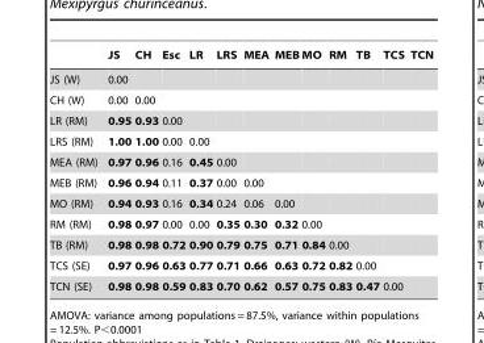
<table><thead><tr><td></td><td>JS</td><td>CH</td><td>Esc</td><td>LR</td><td>LRS</td><td>MEA</td><td>MEB</td><td>MO</td><td>RM</td><td>TB</td><td>TCS</td><td>TCN</td></tr></thead><tbody><tr><td>JS (W)</td><td>0.00</td><td></td><td></td><td></td><td></td><td></td><td></td><td></td><td></td><td></td><td></td><td></td></tr><tr><td>CH (W)</td><td>0.00</td><td>0.00</td><td></td><td></td><td></td><td></td><td></td><td></td><td></td><td></td><td></td><td></td></tr><tr><td>LR (RM)</td><td>0.95</td><td>0.93</td><td>0.00</td><td></td><td></td><td></td><td></td><td></td><td></td><td></td><td></td><td></td></tr><tr><td>LRS (RM)</td><td>1.00</td><td>1.00</td><td>0.00</td><td>0.00</td><td></td><td></td><td></td><td></td><td></td><td></td><td></td><td></td></tr><tr><td>MEA (RM)</td><td>0.97</td><td>0.96</td><td>0.16</td><td>0.45</td><td>0.00</td><td></td><td></td><td></td><td></td><td></td><td></td><td></td></tr><tr><td>MEB (RM)</td><td>0.96</td><td>0.94</td><td>0.11</td><td>0.37</td><td>0.00</td><td>0.00</td><td></td><td></td><td></td><td></td><td></td><td></td></tr><tr><td>MO (RM)</td><td>0.94</td><td>0.93</td><td>0.16</td><td>0.34</td><td>0.24</td><td>0.06</td><td>0.00</td><td></td><td></td><td></td><td></td><td></td></tr><tr><td>RM (RM)</td><td>0.98</td><td>0.97</td><td>0.00</td><td>0.00</td><td>0.35</td><td>0.30</td><td>0.32</td><td>0.00</td><td></td><td></td><td></td><td></td></tr><tr><td>TB (RM)</td><td>0.98</td><td>0.98</td><td>0.72</td><td>0.90</td><td>0.79</td><td>0.75</td><td>0.71</td><td>0.84</td><td>0.00</td><td></td><td></td><td></td></tr><tr><td>TCS (SE)</td><td>0.97</td><td>0.96</td><td>0.63</td><td>0.77</td><td>0.71</td><td>0.66</td><td>0.63</td><td>0.72</td><td>0.82</td><td>0.00</td><td></td><td></td></tr><tr><td>TCN (SE)</td><td>0.98</td><td>0.98</td><td>0.59</td><td>0.83</td><td>0.70</td><td>0.62</td><td>0.57</td><td>0.75</td><td>0.83</td><td>0.47</td><td>0.00</td><td></td></tr></tbody></table>